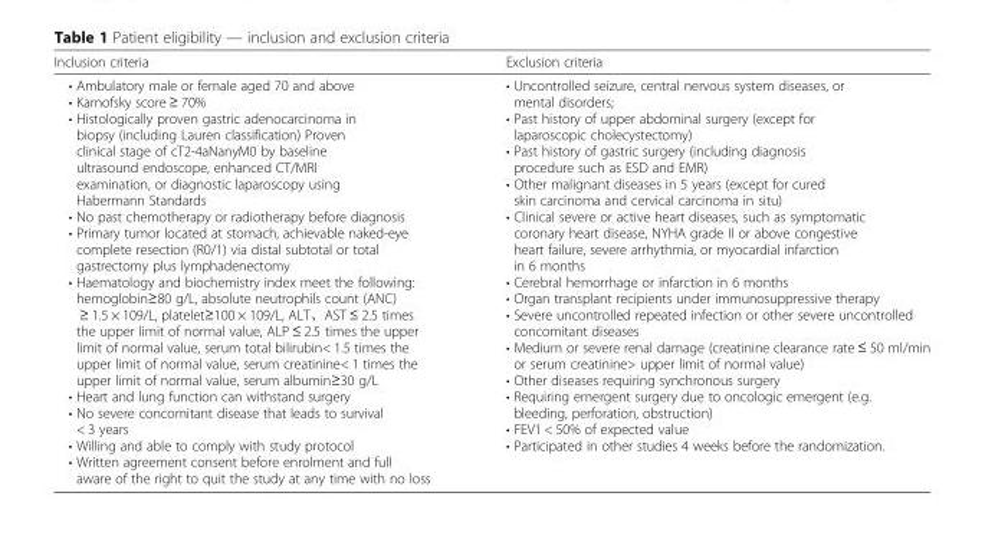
<table><thead><tr><td>Inclusion criteria</td><td>Exclusion criteria</td></tr></thead><tbody><tr><td>• Ambulatory male or female aged 70 and above • Karnofsky score ≥ 70% • Histologically proven gastric adenocarcinoma in biopsy (including Lauren classification) Proven clinical stage of cT2-4aNanyM0 by baseline ultrasound endoscope, enhanced CT/MRI examination, or diagnostic laparoscopy using Habermann Standards • No past chemotherapy or radiotherapy before diagnosis • Primary tumor located at stomach, achievable naked-eye complete resection (R0/1) via distal subtotal or total gastrectomy plus lymphadenectomy • Haematology and biochemistry index meet the following: hemoglobin≥80 g/L, absolute neutrophils count (ANC) ≥ 1.5 × 109/L, platelet≥100 × 109/L, ALT、AST ≤ 2.5 times the upper limit of normal value, ALP ≤ 2.5 times the upper limit of normal value, serum total bilirubin&lt; 1.5 times the upper limit of normal value, serum creatinine&lt; 1 times the upper limit of normal value, serum albumin≥30 g/L • Heart and lung function can withstand surgery • No severe concomitant disease that leads to survival &lt; 3 years • Willing and able to comply with study protocol • Written agreement consent before enrolment and full aware of the right to quit the study at any time with no loss</td><td>• Uncontrolled seizure, central nervous system diseases, or mental disorders; • Past history of upper abdominal surgery (except for laparoscopic cholecystectomy) • Past history of gastric surgery (including diagnosis procedure such as ESD and EMR) • Other malignant diseases in 5 years (except for cured skin carcinoma and cervical carcinoma in situ) • Clinical severe or active heart diseases, such as symptomatic coronary heart disease, NYHA grade II or above congestive heart failure, severe arrhythmia, or myocardial infarction in 6 months • Cerebral hemorrhage or infarction in 6 months • Organ transplant recipients under immunosuppressive therapy • Severe uncontrolled repeated infection or other severe uncontrolled concomitant diseases • Medium or severe renal damage (creatinine clearance rate ≤ 50 ml/min or serum creatinine&gt; upper limit of normal value) • Other diseases requiring synchronous surgery • Requiring emergent surgery due to oncologic emergent (e.g. bleeding, perforation, obstruction) • FEV1 &lt; 50% of expected value • Participated in other studies 4 weeks before the randomization.</td></tr></tbody></table>